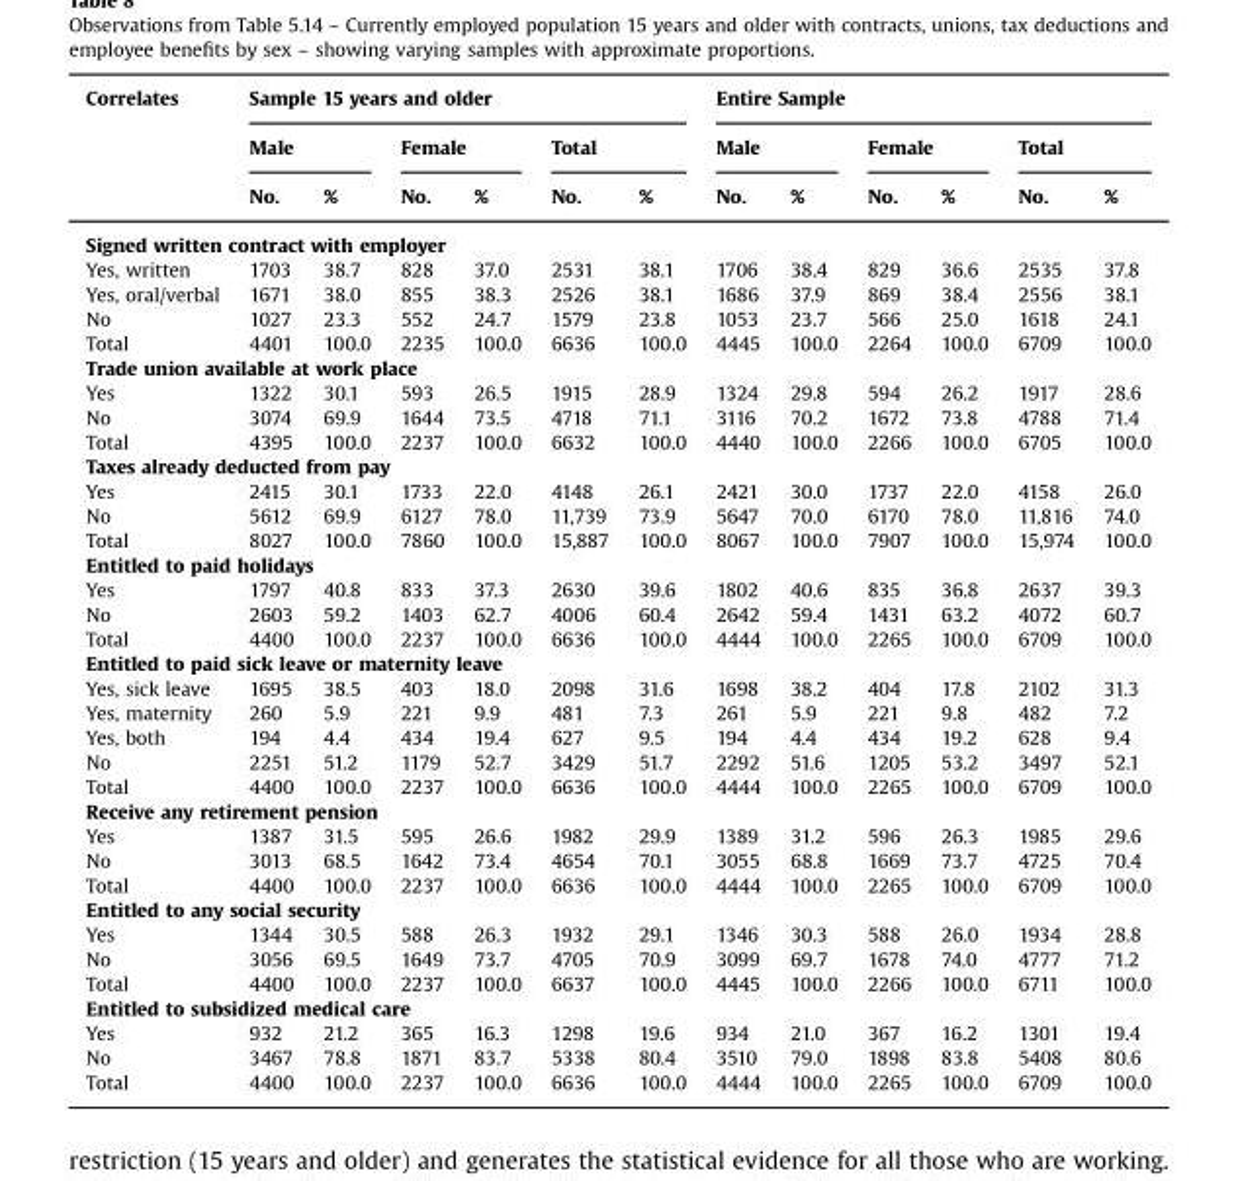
<table><thead><tr><td rowspan="3">Correlates</td><td colspan="6">Sample 15 years and older</td><td colspan="6">Entire Sample</td></tr><tr><td colspan="2">Male</td><td colspan="2">Female</td><td colspan="2">Total</td><td colspan="2">Male</td><td colspan="2">Female</td><td colspan="2">Total</td></tr><tr><td>No.</td><td>%</td><td>No.</td><td>%</td><td>No.</td><td>%</td><td>No.</td><td>%</td><td>No.</td><td>%</td><td>No.</td><td>%</td></tr></thead><tbody><tr><td colspan="13">Signed written contract with employer</td></tr><tr><td>Yes, written</td><td>1703</td><td>38.7</td><td>828</td><td>37.0</td><td>2531</td><td>38.1</td><td>1706</td><td>38.4</td><td>829</td><td>36.6</td><td>2535</td><td>37.8</td></tr><tr><td>Yes, oral/verbal</td><td>1671</td><td>38.0</td><td>855</td><td>38.3</td><td>2526</td><td>38.1</td><td>1686</td><td>37.9</td><td>869</td><td>38.4</td><td>2556</td><td>38.1</td></tr><tr><td>No</td><td>1027</td><td>23.3</td><td>552</td><td>24.7</td><td>1579</td><td>23.8</td><td>1053</td><td>23.7</td><td>566</td><td>25.0</td><td>1618</td><td>24.1</td></tr><tr><td>Total</td><td>4401</td><td>100.0</td><td>2235</td><td>100.0</td><td>6636</td><td>100.0</td><td>4445</td><td>100.0</td><td>2264</td><td>100.0</td><td>6709</td><td>100.0</td></tr><tr><td colspan="13">Trade union available at work place</td></tr><tr><td>Yes</td><td>1322</td><td>30.1</td><td>593</td><td>26.5</td><td>1915</td><td>28.9</td><td>1324</td><td>29.8</td><td>594</td><td>26.2</td><td>1917</td><td>28.6</td></tr><tr><td>No</td><td>3074</td><td>69.9</td><td>1644</td><td>73.5</td><td>4718</td><td>71.1</td><td>3116</td><td>70.2</td><td>1672</td><td>73.8</td><td>4788</td><td>71.4</td></tr><tr><td>Total</td><td>4395</td><td>100.0</td><td>2237</td><td>100.0</td><td>6632</td><td>100.0</td><td>4440</td><td>100.0</td><td>2266</td><td>100.0</td><td>6705</td><td>100.0</td></tr><tr><td colspan="13">Taxes already deducted from pay</td></tr><tr><td>Yes</td><td>2415</td><td>30.1</td><td>1733</td><td>22.0</td><td>4148</td><td>26.1</td><td>2421</td><td>30.0</td><td>1737</td><td>22.0</td><td>4158</td><td>26.0</td></tr><tr><td>No</td><td>5612</td><td>69.9</td><td>6127</td><td>78.0</td><td>11,739</td><td>73.9</td><td>5647</td><td>70.0</td><td>6170</td><td>78.0</td><td>11,816</td><td>74.0</td></tr><tr><td>Total</td><td>8027</td><td>100.0</td><td>7860</td><td>100.0</td><td>15,887</td><td>100.0</td><td>8067</td><td>100.0</td><td>7907</td><td>100.0</td><td>15,974</td><td>100.0</td></tr><tr><td colspan="13">Entitled to paid holidays</td></tr><tr><td>Yes</td><td>1797</td><td>40.8</td><td>833</td><td>37.3</td><td>2630</td><td>39.6</td><td>1802</td><td>40.6</td><td>835</td><td>36.8</td><td>2637</td><td>39.3</td></tr><tr><td>No</td><td>2603</td><td>59.2</td><td>1403</td><td>62.7</td><td>4006</td><td>60.4</td><td>2642</td><td>59.4</td><td>1431</td><td>63.2</td><td>4072</td><td>60.7</td></tr><tr><td>Total</td><td>4400</td><td>100.0</td><td>2237</td><td>100.0</td><td>6636</td><td>100.0</td><td>4444</td><td>100.0</td><td>2265</td><td>100.0</td><td>6709</td><td>100.0</td></tr><tr><td colspan="13">Entitled to paid sick leave or maternity leave</td></tr><tr><td>Yes, sick leave</td><td>1695</td><td>38.5</td><td>403</td><td>18.0</td><td>2098</td><td>31.6</td><td>1698</td><td>38.2</td><td>404</td><td>17.8</td><td>2102</td><td>31.3</td></tr><tr><td>Yes, maternity</td><td>260</td><td>5.9</td><td>221</td><td>9.9</td><td>481</td><td>7.3</td><td>261</td><td>5.9</td><td>221</td><td>9.8</td><td>482</td><td>7.2</td></tr><tr><td>Yes, both</td><td>194</td><td>4.4</td><td>434</td><td>19.4</td><td>627</td><td>9.5</td><td>194</td><td>4.4</td><td>434</td><td>19.2</td><td>628</td><td>9.4</td></tr><tr><td>No</td><td>2251</td><td>51.2</td><td>1179</td><td>52.7</td><td>3429</td><td>51.7</td><td>2292</td><td>51.6</td><td>1205</td><td>53.2</td><td>3497</td><td>52.1</td></tr><tr><td>Total</td><td>4400</td><td>100.0</td><td>2237</td><td>100.0</td><td>6636</td><td>100.0</td><td>4444</td><td>100.0</td><td>2265</td><td>100.0</td><td>6709</td><td>100.0</td></tr><tr><td colspan="13">Receive any retirement pension</td></tr><tr><td>Yes</td><td>1387</td><td>31.5</td><td>595</td><td>26.6</td><td>1982</td><td>29.9</td><td>1389</td><td>31.2</td><td>596</td><td>26.3</td><td>1985</td><td>29.6</td></tr><tr><td>No</td><td>3013</td><td>68.5</td><td>1642</td><td>73.4</td><td>4654</td><td>70.1</td><td>3055</td><td>68.8</td><td>1669</td><td>73.7</td><td>4725</td><td>70.4</td></tr><tr><td>Total</td><td>4400</td><td>100.0</td><td>2237</td><td>100.0</td><td>6636</td><td>100.0</td><td>4444</td><td>100.0</td><td>2265</td><td>100.0</td><td>6709</td><td>100.0</td></tr><tr><td colspan="13">Entitled to any social security</td></tr><tr><td>Yes</td><td>1344</td><td>30.5</td><td>588</td><td>26.3</td><td>1932</td><td>29.1</td><td>1346</td><td>30.3</td><td>588</td><td>26.0</td><td>1934</td><td>28.8</td></tr><tr><td>No</td><td>3056</td><td>69.5</td><td>1649</td><td>73.7</td><td>4705</td><td>70.9</td><td>3099</td><td>69.7</td><td>1678</td><td>74.0</td><td>4777</td><td>71.2</td></tr><tr><td>Total</td><td>4400</td><td>100.0</td><td>2237</td><td>100.0</td><td>6637</td><td>100.0</td><td>4445</td><td>100.0</td><td>2266</td><td>100.0</td><td>6711</td><td>100.0</td></tr><tr><td colspan="13">Entitled to subsidized medical care</td></tr><tr><td>Yes</td><td>932</td><td>21.2</td><td>365</td><td>16.3</td><td>1298</td><td>19.6</td><td>934</td><td>21.0</td><td>367</td><td>16.2</td><td>1301</td><td>19.4</td></tr><tr><td>No</td><td>3467</td><td>78.8</td><td>1871</td><td>83.7</td><td>5338</td><td>80.4</td><td>3510</td><td>79.0</td><td>1898</td><td>83.8</td><td>5408</td><td>80.6</td></tr><tr><td>Total</td><td>4400</td><td>100.0</td><td>2237</td><td>100.0</td><td>6636</td><td>100.0</td><td>4444</td><td>100.0</td><td>2265</td><td>100.0</td><td>6709</td><td>100.0</td></tr></tbody></table>